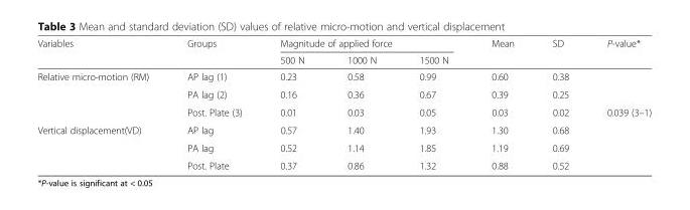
<table><thead><tr><td rowspan="2">Variables</td><td rowspan="2">Groups</td><td colspan="3">Magnitude of applied force</td><td rowspan="2">Mean</td><td rowspan="2">SD</td><td rowspan="2">P-value*</td></tr><tr><td>500 N</td><td>1000 N</td><td>1500 N</td></tr></thead><tbody><tr><td rowspan="3">Relative micro-motion (RM)</td><td>AP lag (1)</td><td>0.23</td><td>0.58</td><td>0.99</td><td>0.60</td><td>0.38</td><td></td></tr><tr><td>PA lag (2)</td><td>0.16</td><td>0.36</td><td>0.67</td><td>0.39</td><td>0.25</td><td></td></tr><tr><td>Post. Plate (3)</td><td>0.01</td><td>0.03</td><td>0.05</td><td>0.03</td><td>0.02</td><td>0.039 (3–1)</td></tr><tr><td rowspan="3">Vertical displacement(VD)</td><td>AP lag</td><td>0.57</td><td>1.40</td><td>1.93</td><td>1.30</td><td>0.68</td><td></td></tr><tr><td>PA lag</td><td>0.52</td><td>1.14</td><td>1.85</td><td>1.19</td><td>0.69</td><td></td></tr><tr><td>Post. Plate</td><td>0.37</td><td>0.86</td><td>1.32</td><td>0.88</td><td>0.52</td><td></td></tr></tbody></table>